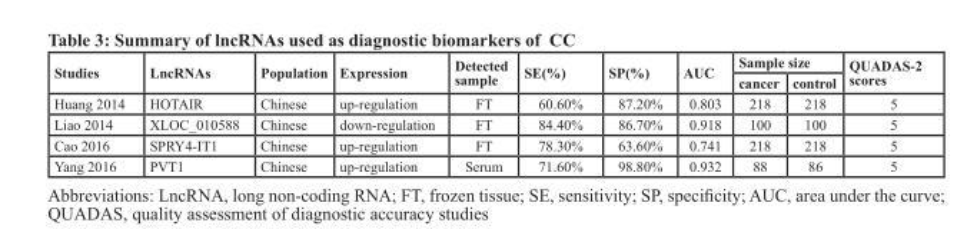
<table><thead><tr><td rowspan="2">Studies</td><td rowspan="2">LncRNAs</td><td rowspan="2">Population</td><td rowspan="2">Expression</td><td rowspan="2">Detected sample</td><td rowspan="2">SE(%)</td><td rowspan="2">SP(%)</td><td rowspan="2">AUC</td><td colspan="2">Sample size</td><td rowspan="2">QUADAS-2 scores</td></tr><tr><td>cancer</td><td>control</td></tr></thead><tbody><tr><td>Huang 2014</td><td>HOTAIR</td><td>Chinese</td><td>up-regulation</td><td>FT</td><td>60.60%</td><td>87.20%</td><td>0.803</td><td>218</td><td>218</td><td>5</td></tr><tr><td>Liao 2014</td><td>XLOC_010588</td><td>Chinese</td><td>down-regulation</td><td>FT</td><td>84.40%</td><td>86.70%</td><td>0.918</td><td>100</td><td>100</td><td>5</td></tr><tr><td>Cao 2016</td><td>SPRY4-IT1</td><td>Chinese</td><td>up-regulation</td><td>FT</td><td>78.30%</td><td>63.60%</td><td>0.741</td><td>218</td><td>218</td><td>5</td></tr><tr><td>Yang 2016</td><td>PVT1</td><td>Chinese</td><td>up-regulation</td><td>Serum</td><td>71.60%</td><td>98.80%</td><td>0.932</td><td>88</td><td>86</td><td>5</td></tr></tbody></table>